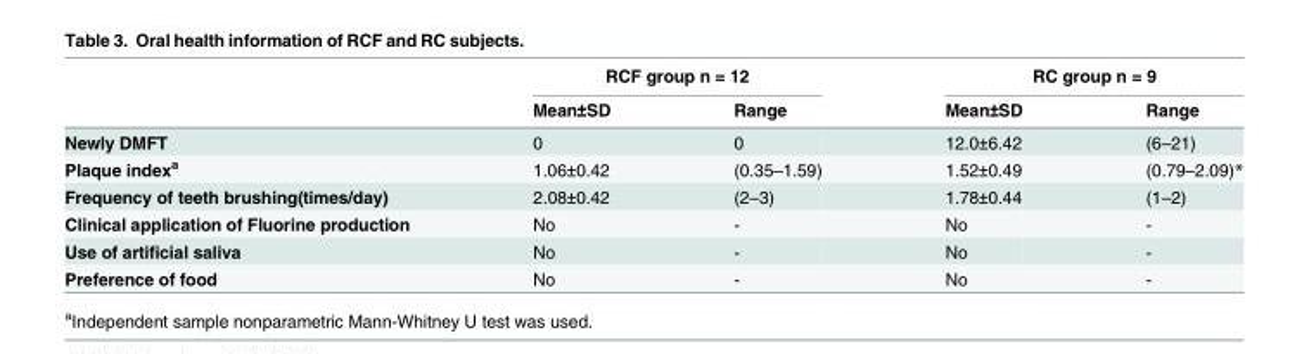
<table><thead><tr><td rowspan="2"></td><td colspan="2">RCF group n = 12</td><td colspan="2">RC group n = 9</td></tr><tr><td>Mean±SD</td><td>Range</td><td>Mean±SD</td><td>Range</td></tr></thead><tbody><tr><td>Newly DMFT</td><td>0</td><td>0</td><td>12.0±6.42</td><td>(6–21)</td></tr><tr><td>Plaque index<sup>a</sup></td><td>1.06±0.42</td><td>(0.35–1.59)</td><td>1.52±0.49</td><td>(0.79–2.09)*</td></tr><tr><td>Frequency of teeth brushing(times/day)</td><td>2.08±0.42</td><td>(2–3)</td><td>1.78±0.44</td><td>(1–2)</td></tr><tr><td>Clinical application of Fluorine production</td><td>No</td><td>-</td><td>No</td><td>-</td></tr><tr><td>Use of artificial saliva</td><td>No</td><td>-</td><td>No</td><td>-</td></tr><tr><td>Preference of food</td><td>No</td><td>-</td><td>No</td><td>-</td></tr></tbody></table>